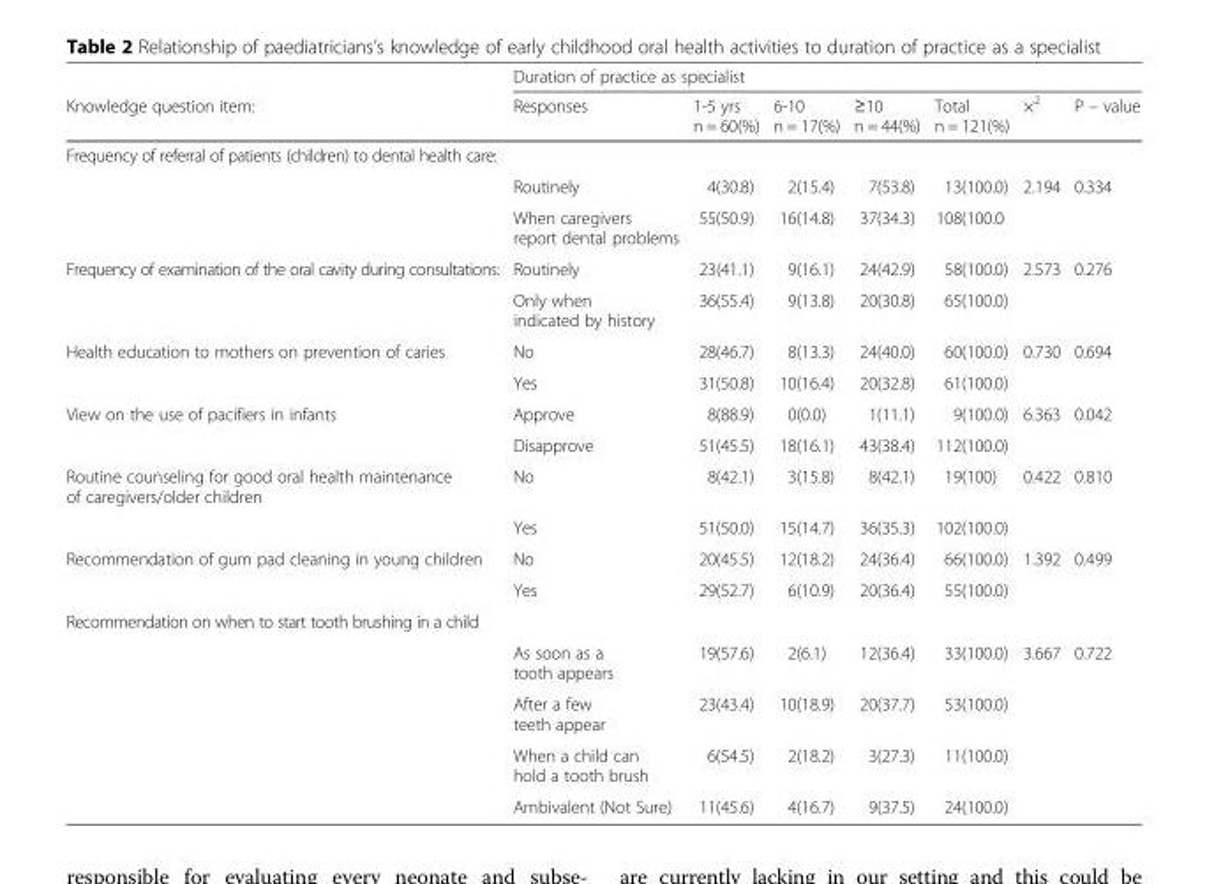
<table><thead><tr><td rowspan="2">Knowledge question item:</td><td colspan="7">Duration of practice as specialist</td></tr><tr><td>Responses</td><td>1-5 yrs n = 60(%)</td><td>6-10 n = 17(%)</td><td>≥10 n = 44(%)</td><td>Total n = 121(%)</td><td>×<sup>2</sup></td><td>P – value</td></tr></thead><tbody><tr><td colspan="8">Frequency of referral of patients (children) to dental health care:</td></tr><tr><td></td><td>Routinely</td><td>4(30.8)</td><td>2(15.4)</td><td>7(53.8)</td><td>13(100.0)</td><td>2.194</td><td>0.334</td></tr><tr><td></td><td>When caregivers report dental problems</td><td>55(50.9)</td><td>16(14.8)</td><td>37(34.3)</td><td>108(100.0</td><td></td><td></td></tr><tr><td rowspan="2">Frequency of examination of the oral cavity during consultations:</td><td>Routinely</td><td>23(41.1)</td><td>9(16.1)</td><td>24(42.9)</td><td>58(100.0)</td><td>2.573</td><td>0.276</td></tr><tr><td>Only when indicated by history</td><td>36(55.4)</td><td>9(13.8)</td><td>20(30.8)</td><td>65(100.0)</td><td></td><td></td></tr><tr><td rowspan="2">Health education to mothers on prevention of caries</td><td>No</td><td>28(46.7)</td><td>8(13.3)</td><td>24(40.0)</td><td>60(100.0)</td><td>0.730</td><td>0.694</td></tr><tr><td>Yes</td><td>31(50.8)</td><td>10(16.4)</td><td>20(32.8)</td><td>61(100.0)</td><td></td><td></td></tr><tr><td rowspan="2">View on the use of pacifiers in infants</td><td>Approve</td><td>8(88.9)</td><td>0(0.0)</td><td>1(11.1)</td><td>9(100.0)</td><td>6.363</td><td>0.042</td></tr><tr><td>Disapprove</td><td>51(45.5)</td><td>18(16.1)</td><td>43(38.4)</td><td>112(100.0)</td><td></td><td></td></tr><tr><td rowspan="2">Routine counseling for good oral health maintenance of caregivers/older children</td><td>No</td><td>8(42.1)</td><td>3(15.8)</td><td>8(42.1)</td><td>19(100)</td><td>0.422</td><td>0.810</td></tr><tr><td>Yes</td><td>51(50.0)</td><td>15(14.7)</td><td>36(35.3)</td><td>102(100.0)</td><td></td><td></td></tr><tr><td rowspan="2">Recommendation of gum pad cleaning in young children</td><td>No</td><td>20(45.5)</td><td>12(18.2)</td><td>24(36.4)</td><td>66(100.0)</td><td>1.392</td><td>0.499</td></tr><tr><td>Yes</td><td>29(52.7)</td><td>6(10.9)</td><td>20(36.4)</td><td>55(100.0)</td><td></td><td></td></tr><tr><td colspan="8">Recommendation on when to start tooth brushing in a child</td></tr><tr><td></td><td>As soon as a tooth appears</td><td>19(57.6)</td><td>2(6.1)</td><td>12(36.4)</td><td>33(100.0)</td><td>3.667</td><td>0.722</td></tr><tr><td></td><td>After a few teeth appear</td><td>23(43.4)</td><td>10(18.9)</td><td>20(37.7)</td><td>53(100.0)</td><td></td><td></td></tr><tr><td></td><td>When a child can hold a tooth brush</td><td>6(54.5)</td><td>2(18.2)</td><td>3(27.3)</td><td>11(100.0)</td><td></td><td></td></tr><tr><td></td><td>Ambivalent (Not Sure)</td><td>11(45.6)</td><td>4(16.7)</td><td>9(37.5)</td><td>24(100.0)</td><td></td><td></td></tr></tbody></table>